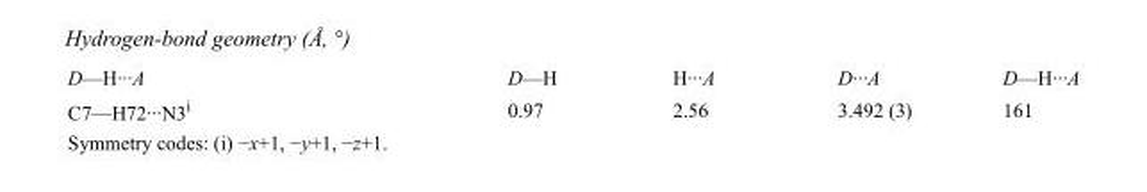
<table><tbody><tr><td>D—H···A</td><td>D—H</td><td>H···A</td><td>D···A</td><td>D—H···A</td></tr><tr><td>C7—H72···N3<sup>i</sup></td><td>0.97</td><td>2.56</td><td>3.492 (3)</td><td>161</td></tr></tbody></table>